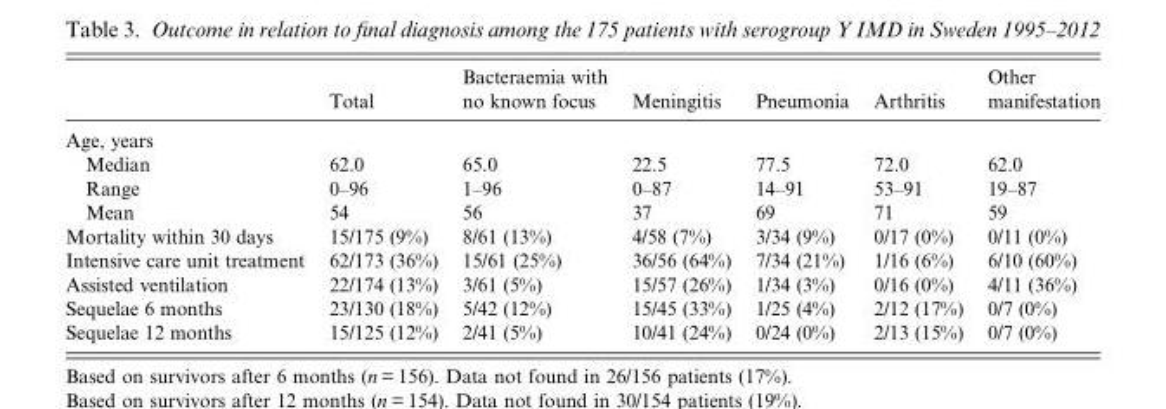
<table><thead><tr><td></td><td>Total</td><td>Bacteraemia with no known focus</td><td>Meningitis</td><td>Pneumonia</td><td>Arthritis</td><td>Other manifestation</td></tr></thead><tbody><tr><td colspan="7">Age, years</td></tr><tr><td>Median</td><td>62.0</td><td>65.0</td><td>22.5</td><td>77.5</td><td>72.0</td><td>62.0</td></tr><tr><td>Range</td><td>0–96</td><td>1–96</td><td>0–87</td><td>14–91</td><td>53–91</td><td>19–87</td></tr><tr><td>Mean</td><td>54</td><td>56</td><td>37</td><td>69</td><td>71</td><td>59</td></tr><tr><td>Mortality within 30 days</td><td>15/175 (9%)</td><td>8/61 (13%)</td><td>4/58 (7%)</td><td>3/34 (9%)</td><td>0/17 (0%)</td><td>0/11 (0%)</td></tr><tr><td>Intensive care unit treatment</td><td>62/173 (36%)</td><td>15/61 (25%)</td><td>36/56 (64%)</td><td>7/34 (21%)</td><td>1/16 (6%)</td><td>6/10 (60%)</td></tr><tr><td>Assisted ventilation</td><td>22/174 (13%)</td><td>3/61 (5%)</td><td>15/57 (26%)</td><td>1/34 (3%)</td><td>0/16 (0%)</td><td>4/11 (36%)</td></tr><tr><td>Sequelae 6 months</td><td>23/130 (18%)</td><td>5/42 (12%)</td><td>15/45 (33%)</td><td>1/25 (4%)</td><td>2/12 (17%)</td><td>0/7 (0%)</td></tr><tr><td>Sequelae 12 months</td><td>15/125 (12%)</td><td>2/41 (5%)</td><td>10/41 (24%)</td><td>0/24 (0%)</td><td>2/13 (15%)</td><td>0/7 (0%)</td></tr></tbody></table>